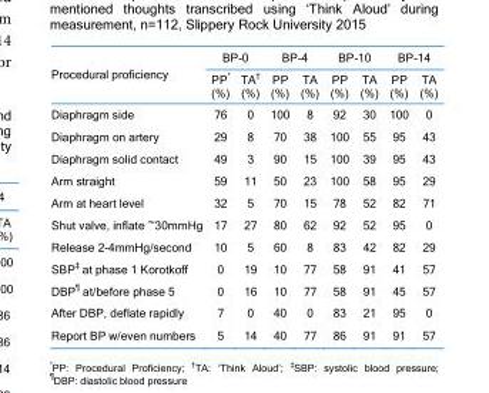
<table><thead><tr><td rowspan="2">Procedural proficiency</td><td colspan="2">BP-0</td><td colspan="2">BP-4</td><td colspan="2">BP-10</td><td colspan="2">BP-14</td></tr><tr><td>PP* (%)</td><td>TA<sup>†</sup> (%)</td><td>PP (%)</td><td>TA (%)</td><td>PP (%)</td><td>TA (%)</td><td>PP (%)</td><td>TA (%)</td></tr></thead><tbody><tr><td>Diaphragm side</td><td>76</td><td>0</td><td>100</td><td>8</td><td>92</td><td>30</td><td>100</td><td>0</td></tr><tr><td>Diaphragm on artery</td><td>29</td><td>8</td><td>70</td><td>38</td><td>100</td><td>55</td><td>95</td><td>43</td></tr><tr><td>Diaphragm solid contact</td><td>49</td><td>3</td><td>90</td><td>15</td><td>100</td><td>39</td><td>95</td><td>43</td></tr><tr><td>Arm straight</td><td>59</td><td>11</td><td>50</td><td>23</td><td>100</td><td>58</td><td>95</td><td>29</td></tr><tr><td>Arm at heart level</td><td>32</td><td>5</td><td>70</td><td>15</td><td>78</td><td>52</td><td>82</td><td>71</td></tr><tr><td>Shut valve, inflate ~30mmHg</td><td>17</td><td>27</td><td>80</td><td>62</td><td>92</td><td>52</td><td>95</td><td>0</td></tr><tr><td>Release 2-4mmHg/second</td><td>10</td><td>5</td><td>60</td><td>8</td><td>83</td><td>42</td><td>82</td><td>29</td></tr><tr><td>SBP<sup>‡</sup> at phase 1 Korotkoff</td><td>0</td><td>19</td><td>10</td><td>77</td><td>58</td><td>91</td><td>41</td><td>57</td></tr><tr><td>DBP<sup>¶</sup> at/before phase 5</td><td>0</td><td>16</td><td>10</td><td>77</td><td>58</td><td>91</td><td>45</td><td>57</td></tr><tr><td>After DBP, deflate rapidly</td><td>7</td><td>0</td><td>40</td><td>0</td><td>83</td><td>21</td><td>95</td><td>0</td></tr><tr><td>Report BP w/even numbers</td><td>5</td><td>14</td><td>40</td><td>77</td><td>86</td><td>91</td><td>91</td><td>57</td></tr></tbody></table>